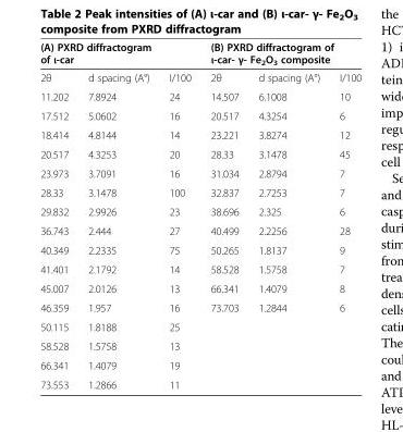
<table><thead><tr><td colspan="3">(A) PXRD diffractogram of ι-car</td><td colspan="3">(B) PXRD diffractogram of ι-car- γ- Fe<sub>2</sub>O<sub>3</sub> composite</td></tr><tr><td>2θ</td><td>d spacing (A°)</td><td>I/100</td><td>2θ</td><td>d spacing (A°)</td><td>I/100</td></tr></thead><tbody><tr><td>11.202</td><td>7.8924</td><td>24</td><td>14.507</td><td>6.1008</td><td>10</td></tr><tr><td>17.512</td><td>5.0602</td><td>16</td><td>20.517</td><td>4.3254</td><td>6</td></tr><tr><td>18.414</td><td>4.8144</td><td>14</td><td>23.221</td><td>3.8274</td><td>12</td></tr><tr><td>20.517</td><td>4.3253</td><td>20</td><td>28.33</td><td>3.1478</td><td>45</td></tr><tr><td>23.973</td><td>3.7091</td><td>16</td><td>31.034</td><td>2.8794</td><td>7</td></tr><tr><td>28.33</td><td>3.1478</td><td>100</td><td>32.837</td><td>2.7253</td><td>7</td></tr><tr><td>29.832</td><td>2.9926</td><td>23</td><td>38.696</td><td>2.325</td><td>6</td></tr><tr><td>36.743</td><td>2.444</td><td>27</td><td>40.499</td><td>2.2256</td><td>28</td></tr><tr><td>40.349</td><td>2.2335</td><td>75</td><td>50.265</td><td>1.8137</td><td>9</td></tr><tr><td>41.401</td><td>2.1792</td><td>14</td><td>58.528</td><td>1.5758</td><td>7</td></tr><tr><td>45.007</td><td>2.0126</td><td>13</td><td>66.341</td><td>1.4079</td><td>8</td></tr><tr><td>46.359</td><td>1.957</td><td>16</td><td>73.703</td><td>1.2844</td><td>6</td></tr><tr><td>50.115</td><td>1.8188</td><td>25</td><td></td><td></td><td></td></tr><tr><td>58.528</td><td>1.5758</td><td>13</td><td></td><td></td><td></td></tr><tr><td>66.341</td><td>1.4079</td><td>19</td><td></td><td></td><td></td></tr><tr><td>73.553</td><td>1.2866</td><td>11</td><td></td><td></td><td></td></tr></tbody></table>